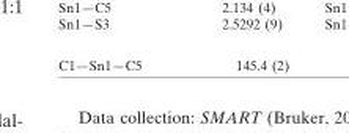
<table><tbody><tr><td>C1—Sn1—C5</td><td>145.4 (2)</td></tr></tbody></table>